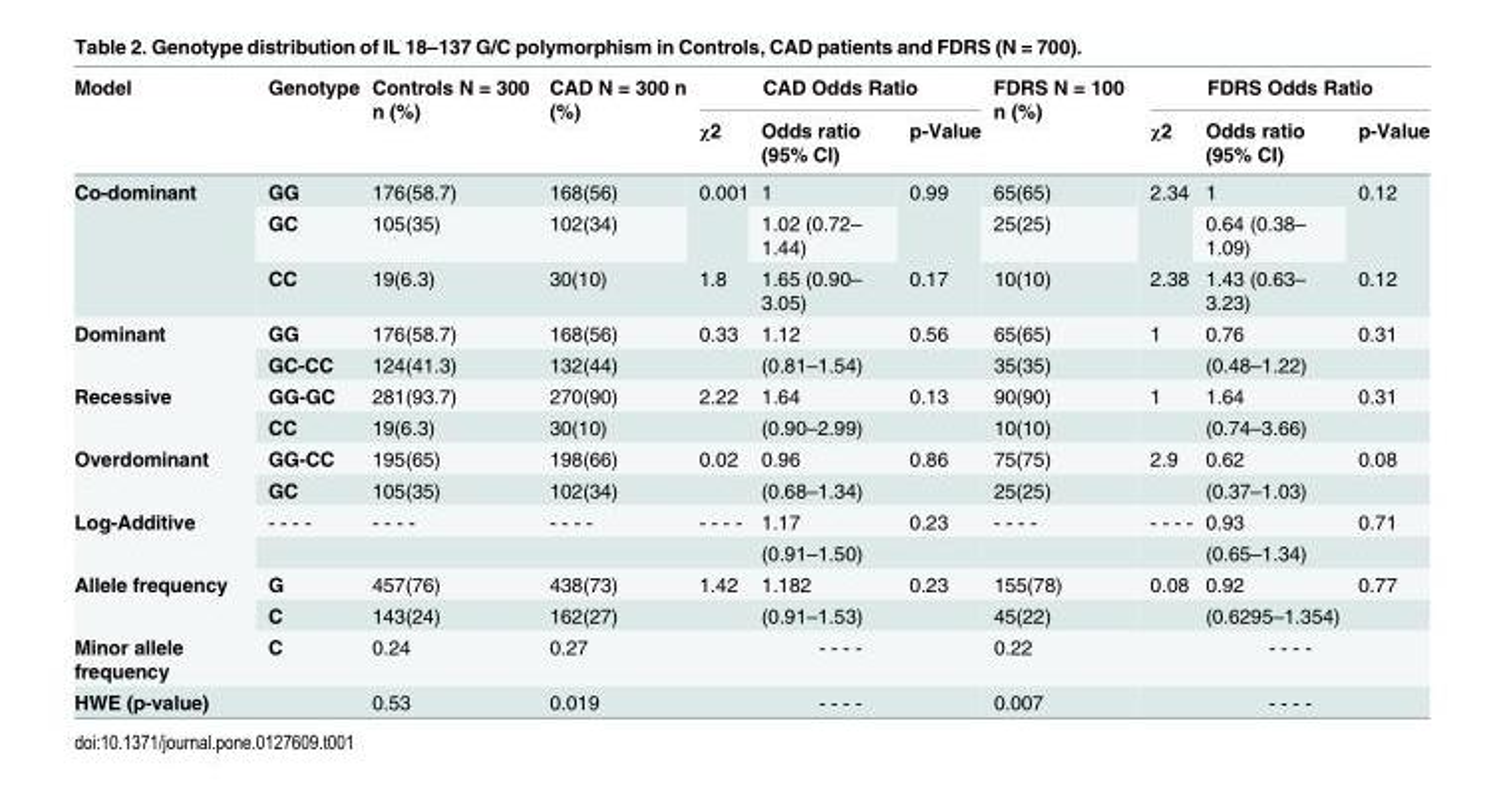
<table><thead><tr><td rowspan="2">Model</td><td rowspan="2">Genotype</td><td rowspan="2">Controls N = 300 n (%)</td><td rowspan="2">CAD N = 300 n (%)</td><td colspan="3">CAD Odds Ratio</td><td rowspan="2">FDRS N = 100 n (%)</td><td colspan="3">FDRS Odds Ratio</td></tr><tr><td>χ2</td><td>Odds ratio (95% CI)</td><td>p-Value</td><td>χ2</td><td>Odds ratio (95% CI)</td><td>p-Value</td></tr></thead><tbody><tr><td rowspan="3">Co-dominant</td><td>GG</td><td>176(58.7)</td><td>168(56)</td><td rowspan="2">0.001</td><td>1</td><td rowspan="2">0.99</td><td>65(65)</td><td rowspan="2">2.34</td><td>1</td><td rowspan="2">0.12</td></tr><tr><td>GC</td><td>105(35)</td><td>102(34)</td><td>1.02 (0.72– 1.44)</td><td>25(25)</td><td>0.64 (0.38– 1.09)</td></tr><tr><td>CC</td><td>19(6.3)</td><td>30(10)</td><td>1.8</td><td>1.65 (0.90– 3.05)</td><td>0.17</td><td>10(10)</td><td>2.38</td><td>1.43 (0.63– 3.23)</td><td>0.12</td></tr><tr><td rowspan="2">Dominant</td><td>GG</td><td>176(58.7)</td><td>168(56)</td><td>0.33</td><td>1.12</td><td>0.56</td><td>65(65)</td><td>1</td><td>0.76</td><td>0.31</td></tr><tr><td>GC-CC</td><td>124(41.3)</td><td>132(44)</td><td></td><td>(0.81–1.54)</td><td></td><td>35(35)</td><td></td><td>(0.48–1.22)</td><td></td></tr><tr><td rowspan="2">Recessive</td><td>GG-GC</td><td>281(93.7)</td><td>270(90)</td><td>2.22</td><td>1.64</td><td>0.13</td><td>90(90)</td><td>1</td><td>1.64</td><td>0.31</td></tr><tr><td>CC</td><td>19(6.3)</td><td>30(10)</td><td></td><td>(0.90–2.99)</td><td></td><td>10(10)</td><td></td><td>(0.74–3.66)</td><td></td></tr><tr><td rowspan="2">Overdominant</td><td>GG-CC</td><td>195(65)</td><td>198(66)</td><td>0.02</td><td>0.96</td><td>0.86</td><td>75(75)</td><td>2.9</td><td>0.62</td><td>0.08</td></tr><tr><td>GC</td><td>105(35)</td><td>102(34)</td><td></td><td>(0.68–1.34)</td><td></td><td>25(25)</td><td></td><td>(0.37–1.03)</td><td></td></tr><tr><td rowspan="2">Log-Additive</td><td>- - - -</td><td>- - - -</td><td>- - - -</td><td>- - - -</td><td>1.17</td><td>0.23</td><td>- - - -</td><td>- - - -</td><td>0.93</td><td>0.71</td></tr><tr><td></td><td></td><td></td><td></td><td>(0.91–1.50)</td><td></td><td></td><td></td><td>(0.65–1.34)</td><td></td></tr><tr><td rowspan="2">Allele frequency</td><td>G</td><td>457(76)</td><td>438(73)</td><td>1.42</td><td>1.182</td><td>0.23</td><td>155(78)</td><td>0.08</td><td>0.92</td><td>0.77</td></tr><tr><td>C</td><td>143(24)</td><td>162(27)</td><td></td><td>(0.91–1.53)</td><td></td><td>45(22)</td><td></td><td>(0.6295–1.354)</td><td></td></tr><tr><td>Minor allele frequency</td><td>C</td><td>0.24</td><td>0.27</td><td colspan="3">- - - -</td><td>0.22</td><td colspan="3">- - - -</td></tr><tr><td>HWE (p-value)</td><td></td><td>0.53</td><td>0.019</td><td colspan="3">- - - -</td><td>0.007</td><td colspan="3">- - - -</td></tr></tbody></table>